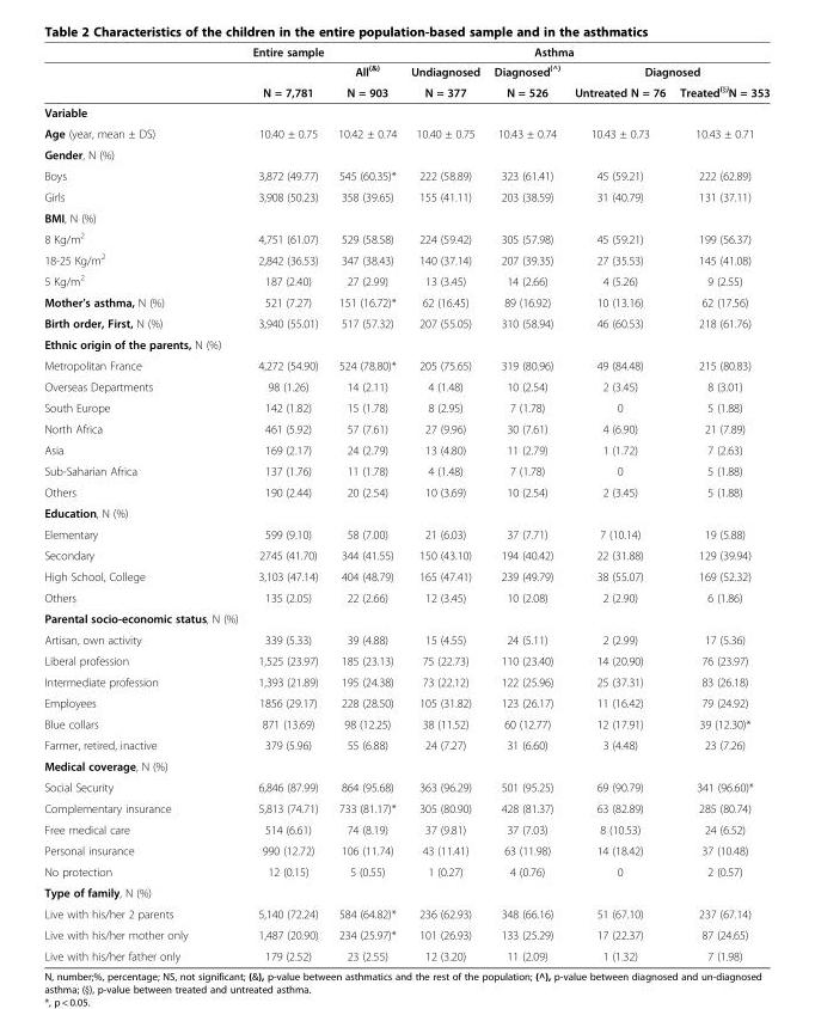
<table><thead><tr><td rowspan="3"></td><td rowspan="3">Entire sample N = 7,781</td><td colspan="5">Asthma</td></tr><tr><td rowspan="2">All<sup>(&amp;)</sup> N = 903</td><td rowspan="2">Undiagnosed N = 377</td><td rowspan="2">Diagnosed<sup>(^)</sup> N = 526</td><td colspan="2">Diagnosed</td></tr><tr><td>Untreated N = 76</td><td>Treated<sup>(§)</sup>N = 353</td></tr></thead><tbody><tr><td colspan="7">Variable</td></tr><tr><td>Age (year, mean ± DS)</td><td>10.40 ± 0.75</td><td>10.42 ± 0.74</td><td>10.40 ± 0.75</td><td>10.43 ± 0.74</td><td>10.43 ± 0.73</td><td>10.43 ± 0.71</td></tr><tr><td colspan="7">Gender, N (%)</td></tr><tr><td>Boys</td><td>3,872 (49.77)</td><td>545 (60.35)*</td><td>222 (58.89)</td><td>323 (61.41)</td><td>45 (59.21)</td><td>222 (62.89)</td></tr><tr><td>Girls</td><td>3,908 (50.23)</td><td>358 (39.65)</td><td>155 (41.11)</td><td>203 (38.59)</td><td>31 (40.79)</td><td>131 (37.11)</td></tr><tr><td colspan="7">BMI, N (%)</td></tr><tr><td>8 Kg/m<sup>2</sup></td><td>4,751 (61.07)</td><td>529 (58.58)</td><td>224 (59.42)</td><td>305 (57.98)</td><td>45 (59.21)</td><td>199 (56.37)</td></tr><tr><td>18-25 Kg/m<sup>2</sup></td><td>2,842 (36.53)</td><td>347 (38.43)</td><td>140 (37.14)</td><td>207 (39.35)</td><td>27 (35.53)</td><td>145 (41.08)</td></tr><tr><td>5 Kg/m<sup>2</sup></td><td>187 (2.40)</td><td>27 (2.99)</td><td>13 (3.45)</td><td>14 (2.66)</td><td>4 (5.26)</td><td>9 (2.55)</td></tr><tr><td>Mother’s asthma, N (%)</td><td>521 (7.27)</td><td>151 (16.72)*</td><td>62 (16.45)</td><td>89 (16.92)</td><td>10 (13.16)</td><td>62 (17.56)</td></tr><tr><td>Birth order, First, N (%)</td><td>3,940 (55.01)</td><td>517 (57.32)</td><td>207 (55.05)</td><td>310 (58.94)</td><td>46 (60.53)</td><td>218 (61.76)</td></tr><tr><td colspan="7">Ethnic origin of the parents, N (%)</td></tr><tr><td>Metropolitan France</td><td>4,272 (54.90)</td><td>524 (78.80)*</td><td>205 (75.65)</td><td>319 (80.96)</td><td>49 (84.48)</td><td>215 (80.83)</td></tr><tr><td>Overseas Departments</td><td>98 (1.26)</td><td>14 (2.11)</td><td>4 (1.48)</td><td>10 (2.54)</td><td>2 (3.45)</td><td>8 (3.01)</td></tr><tr><td>South Europe</td><td>142 (1.82)</td><td>15 (1.78)</td><td>8 (2.95)</td><td>7 (1.78)</td><td>0</td><td>5 (1.88)</td></tr><tr><td>North Africa</td><td>461 (5.92)</td><td>57 (7.61)</td><td>27 (9.96)</td><td>30 (7.61)</td><td>4 (6.90)</td><td>21 (7.89)</td></tr><tr><td>Asia</td><td>169 (2.17)</td><td>24 (2.79)</td><td>13 (4.80)</td><td>11 (2.79)</td><td>1 (1.72)</td><td>7 (2.63)</td></tr><tr><td>Sub-Saharian Africa</td><td>137 (1.76)</td><td>11 (1.78)</td><td>4 (1.48)</td><td>7 (1.78)</td><td>0</td><td>5 (1.88)</td></tr><tr><td>Others</td><td>190 (2.44)</td><td>20 (2.54)</td><td>10 (3.69)</td><td>10 (2.54)</td><td>2 (3.45)</td><td>5 (1.88)</td></tr><tr><td colspan="7">Education, N (%)</td></tr><tr><td>Elementary</td><td>599 (9.10)</td><td>58 (7.00)</td><td>21 (6.03)</td><td>37 (7.71)</td><td>7 (10.14)</td><td>19 (5.88)</td></tr><tr><td>Secondary</td><td>2745 (41.70)</td><td>344 (41.55)</td><td>150 (43.10)</td><td>194 (40.42)</td><td>22 (31.88)</td><td>129 (39.94)</td></tr><tr><td>High School, College</td><td>3,103 (47.14)</td><td>404 (48.79)</td><td>165 (47.41)</td><td>239 (49.79)</td><td>38 (55.07)</td><td>169 (52.32)</td></tr><tr><td>Others</td><td>135 (2.05)</td><td>22 (2.66)</td><td>12 (3.45)</td><td>10 (2.08)</td><td>2 (2.90)</td><td>6 (1.86)</td></tr><tr><td colspan="7">Parental socio-economic status, N (%)</td></tr><tr><td>Artisan, own activity</td><td>339 (5.33)</td><td>39 (4.88)</td><td>15 (4.55)</td><td>24 (5.11)</td><td>2 (2.99)</td><td>17 (5.36)</td></tr><tr><td>Liberal profession</td><td>1,525 (23.97)</td><td>185 (23.13)</td><td>75 (22.73)</td><td>110 (23.40)</td><td>14 (20.90)</td><td>76 (23.97)</td></tr><tr><td>Intermediate profession</td><td>1,393 (21.89)</td><td>195 (24.38)</td><td>73 (22.12)</td><td>122 (25.96)</td><td>25 (37.31)</td><td>83 (26.18)</td></tr><tr><td>Employees</td><td>1856 (29.17)</td><td>228 (28.50)</td><td>105 (31.82)</td><td>123 (26.17)</td><td>11 (16.42)</td><td>79 (24.92)</td></tr><tr><td>Blue collars</td><td>871 (13.69)</td><td>98 (12.25)</td><td>38 (11.52)</td><td>60 (12.77)</td><td>12 (17.91)</td><td>39 (12.30)*</td></tr><tr><td>Farmer, retired, inactive</td><td>379 (5.96)</td><td>55 (6.88)</td><td>24 (7.27)</td><td>31 (6.60)</td><td>3 (4.48)</td><td>23 (7.26)</td></tr><tr><td colspan="7">Medical coverage, N (%)</td></tr><tr><td>Social Security</td><td>6,846 (87.99)</td><td>864 (95.68)</td><td>363 (96.29)</td><td>501 (95.25)</td><td>69 (90.79)</td><td>341 (96.60)*</td></tr><tr><td>Complementary insurance</td><td>5,813 (74.71)</td><td>733 (81.17)*</td><td>305 (80.90)</td><td>428 (81.37)</td><td>63 (82.89)</td><td>285 (80.74)</td></tr><tr><td>Free medical care</td><td>514 (6.61)</td><td>74 (8.19)</td><td>37 (9.81)</td><td>37 (7.03)</td><td>8 (10.53)</td><td>24 (6.52)</td></tr><tr><td>Personal insurance</td><td>990 (12.72)</td><td>106 (11.74)</td><td>43 (11.41)</td><td>63 (11.98)</td><td>14 (18.42)</td><td>37 (10.48)</td></tr><tr><td>No protection</td><td>12 (0.15)</td><td>5 (0.55)</td><td>1 (0.27)</td><td>4 (0.76)</td><td>0</td><td>2 (0.57)</td></tr><tr><td colspan="7">Type of family, N (%)</td></tr><tr><td>Live with his/her 2 parents</td><td>5,140 (72.24)</td><td>584 (64.82)*</td><td>236 (62.93)</td><td>348 (66.16)</td><td>51 (67.10)</td><td>237 (67.14)</td></tr><tr><td>Live with his/her mother only</td><td>1,487 (20.90)</td><td>234 (25.97)*</td><td>101 (26.93)</td><td>133 (25.29)</td><td>17 (22.37)</td><td>87 (24.65)</td></tr><tr><td>Live with his/her father only</td><td>179 (2.52)</td><td>23 (2.55)</td><td>12 (3.20)</td><td>11 (2.09)</td><td>1 (1.32)</td><td>7 (1.98)</td></tr></tbody></table>